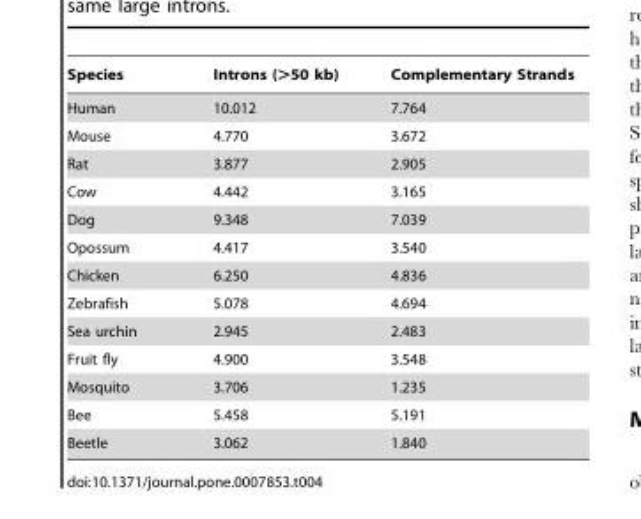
<table><thead><tr><td>Species</td><td>Introns (&gt;50 kb)</td><td>Complementary Strands</td></tr></thead><tbody><tr><td>Human</td><td>10.012</td><td>7.764</td></tr><tr><td>Mouse</td><td>4.770</td><td>3.672</td></tr><tr><td>Rat</td><td>3.877</td><td>2.905</td></tr><tr><td>Cow</td><td>4.442</td><td>3.165</td></tr><tr><td>Dog</td><td>9.348</td><td>7.039</td></tr><tr><td>Opossum</td><td>4.417</td><td>3.540</td></tr><tr><td>Chicken</td><td>6.250</td><td>4.836</td></tr><tr><td>Zebrafish</td><td>5.078</td><td>4.694</td></tr><tr><td>Sea urchin</td><td>2.945</td><td>2.483</td></tr><tr><td>Fruit fly</td><td>4.900</td><td>3.548</td></tr><tr><td>Mosquito</td><td>3.706</td><td>1.235</td></tr><tr><td>Bee</td><td>5.458</td><td>5.191</td></tr><tr><td>Beetle</td><td>3.062</td><td>1.840</td></tr></tbody></table>